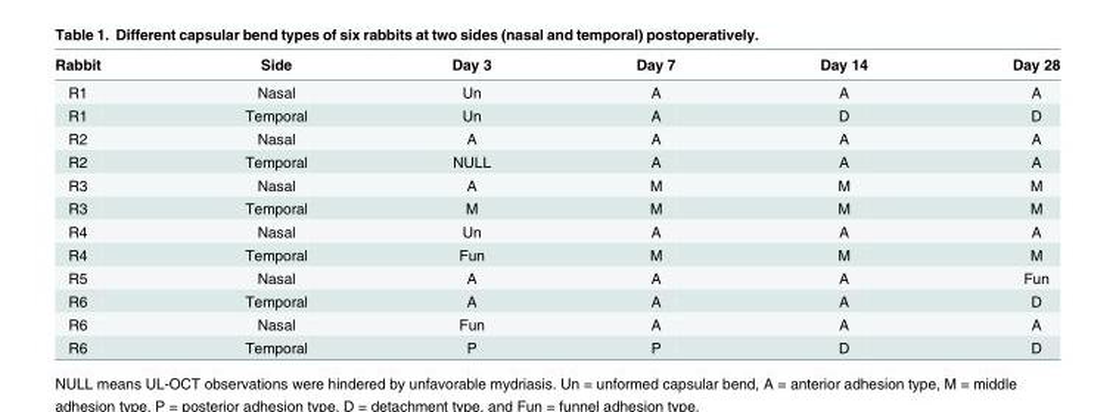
<table><thead><tr><td>Rabbit</td><td>Side</td><td>Day 3</td><td>Day 7</td><td>Day 14</td><td>Day 28</td></tr></thead><tbody><tr><td>R1</td><td>Nasal</td><td>Un</td><td>A</td><td>A</td><td>A</td></tr><tr><td>R1</td><td>Temporal</td><td>Un</td><td>A</td><td>D</td><td>D</td></tr><tr><td>R2</td><td>Nasal</td><td>A</td><td>A</td><td>A</td><td>A</td></tr><tr><td>R2</td><td>Temporal</td><td>NULL</td><td>A</td><td>A</td><td>A</td></tr><tr><td>R3</td><td>Nasal</td><td>A</td><td>M</td><td>M</td><td>M</td></tr><tr><td>R3</td><td>Temporal</td><td>M</td><td>M</td><td>M</td><td>M</td></tr><tr><td>R4</td><td>Nasal</td><td>Un</td><td>A</td><td>A</td><td>A</td></tr><tr><td>R4</td><td>Temporal</td><td>Fun</td><td>M</td><td>M</td><td>M</td></tr><tr><td>R5</td><td>Nasal</td><td>A</td><td>A</td><td>A</td><td>Fun</td></tr><tr><td>R6</td><td>Temporal</td><td>A</td><td>A</td><td>A</td><td>D</td></tr><tr><td>R6</td><td>Nasal</td><td>Fun</td><td>A</td><td>A</td><td>A</td></tr><tr><td>R6</td><td>Temporal</td><td>P</td><td>P</td><td>D</td><td>D</td></tr></tbody></table>